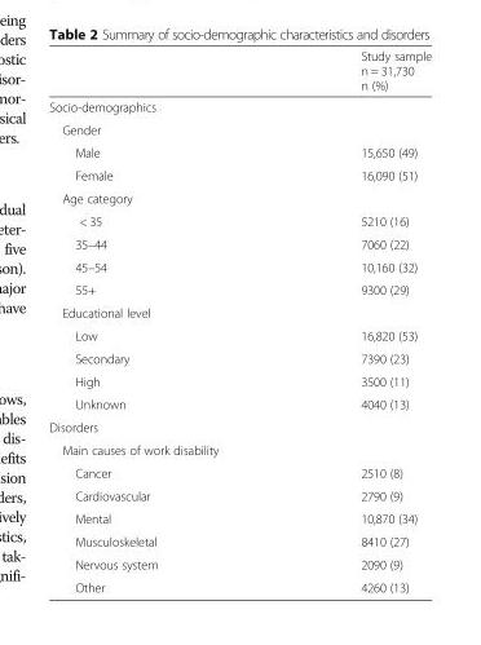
<table><thead><tr><td></td><td>Study sample n = 31,730 n (%)</td></tr></thead><tbody><tr><td colspan="2">Socio-demographics</td></tr><tr><td colspan="2">Gender</td></tr><tr><td>Male</td><td>15,650 (49)</td></tr><tr><td>Female</td><td>16,090 (51)</td></tr><tr><td colspan="2">Age category</td></tr><tr><td>&lt; 35</td><td>5210 (16)</td></tr><tr><td>35–44</td><td>7060 (22)</td></tr><tr><td>45–54</td><td>10,160 (32)</td></tr><tr><td>55+</td><td>9300 (29)</td></tr><tr><td colspan="2">Educational level</td></tr><tr><td>Low</td><td>16,820 (53)</td></tr><tr><td>Secondary</td><td>7390 (23)</td></tr><tr><td>High</td><td>3500 (11)</td></tr><tr><td>Unknown</td><td>4040 (13)</td></tr><tr><td colspan="2">Disorders</td></tr><tr><td colspan="2">Main causes of work disability</td></tr><tr><td>Cancer</td><td>2510 (8)</td></tr><tr><td>Cardiovascular</td><td>2790 (9)</td></tr><tr><td>Mental</td><td>10,870 (34)</td></tr><tr><td>Musculoskeletal</td><td>8410 (27)</td></tr><tr><td>Nervous system</td><td>2090 (9)</td></tr><tr><td>Other</td><td>4260 (13)</td></tr></tbody></table>